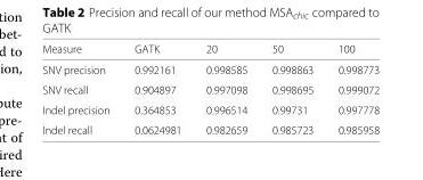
<table><thead><tr><td>Measure</td><td>GATK</td><td>20</td><td>50</td><td>100</td></tr></thead><tbody><tr><td>SNV precision</td><td>0.992161</td><td>0.998585</td><td>0.998863</td><td>0.998773</td></tr><tr><td>SNV recall</td><td>0.904897</td><td>0.997098</td><td>0.998695</td><td>0.999072</td></tr><tr><td>Indel precision</td><td>0.364853</td><td>0.996514</td><td>0.99731</td><td>0.997778</td></tr><tr><td>Indel recall</td><td>0.0624981</td><td>0.982659</td><td>0.985723</td><td>0.985958</td></tr></tbody></table>